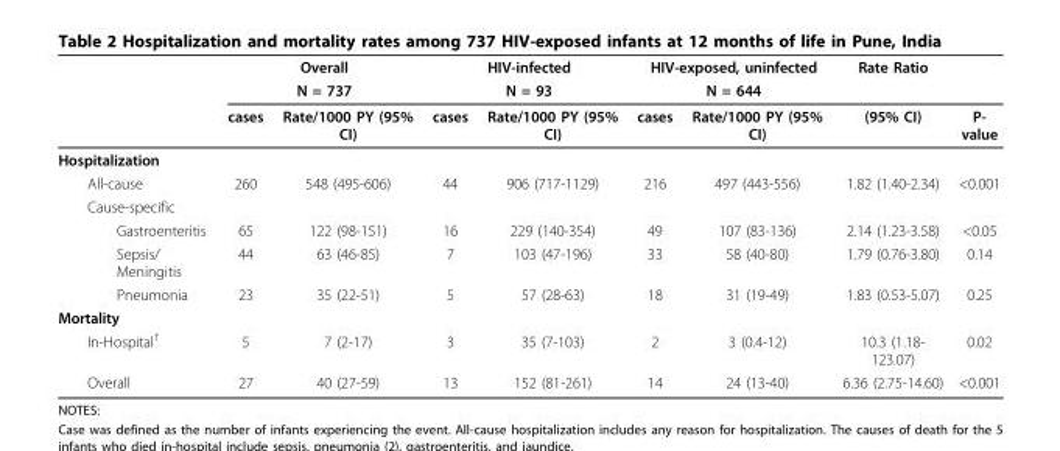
<table><thead><tr><td rowspan="3"></td><td rowspan="2" colspan="2">Overall N = 737</td><td rowspan="2" colspan="2">HIV-infected N = 93</td><td rowspan="2" colspan="2">HIV-exposed, uninfected N = 644</td><td rowspan="3">Rate Ratio (95% CI)</td><td rowspan="3">P- value</td></tr><tr></tr><tr><td>cases</td><td>Rate/1000 PY (95% CI)</td><td>cases</td><td>Rate/1000 PY (95% CI)</td><td>cases</td><td>Rate/1000 PY (95% CI)</td></tr></thead><tbody><tr><td colspan="9">Hospitalization</td></tr><tr><td>All-cause</td><td>260</td><td>548 (495-606)</td><td>44</td><td>906 (717-1129)</td><td>216</td><td>497 (443-556)</td><td>1.82 (1.40-2.34)</td><td>&lt;0.001</td></tr><tr><td colspan="9">Cause-specific</td></tr><tr><td>Gastroenteritis</td><td>65</td><td>122 (98-151)</td><td>16</td><td>229 (140-354)</td><td>49</td><td>107 (83-136)</td><td>2.14 (1.23-3.58)</td><td>&lt;0.05</td></tr><tr><td>Sepsis/ Meningitis</td><td>44</td><td>63 (46-85)</td><td>7</td><td>103 (47-196)</td><td>33</td><td>58 (40-80)</td><td>1.79 (0.76-3.80)</td><td>0.14</td></tr><tr><td>Pneumonia</td><td>23</td><td>35 (22-51)</td><td>5</td><td>57 (28-63)</td><td>18</td><td>31 (19-49)</td><td>1.83 (0.53-5.07)</td><td>0.25</td></tr><tr><td colspan="9">Mortality</td></tr><tr><td>In-Hospital<sup>†</sup></td><td>5</td><td>7 (2-17)</td><td>3</td><td>35 (7-103)</td><td>2</td><td>3 (0.4-12)</td><td>10.3 (1.18- 123.07)</td><td>0.02</td></tr><tr><td>Overall</td><td>27</td><td>40 (27-59)</td><td>13</td><td>152 (81-261)</td><td>14</td><td>24 (13-40)</td><td>6.36 (2.75-14.60)</td><td>&lt;0.001</td></tr></tbody></table>